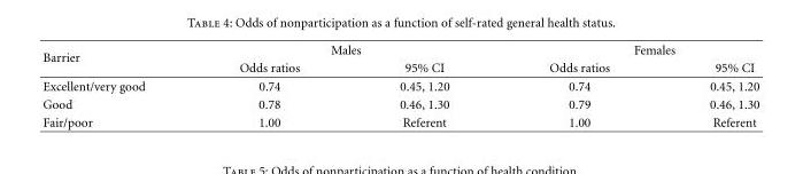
<table><thead><tr><td rowspan="2">Barrier</td><td colspan="2">Males</td><td colspan="2">Females</td></tr><tr><td>Odds ratios</td><td>95% CI</td><td>Odds ratios</td><td>95% CI</td></tr></thead><tbody><tr><td>Excellent/very good</td><td>0.74</td><td>0.45, 1.20</td><td>0.74</td><td>0.45, 1.20</td></tr><tr><td>Good</td><td>0.78</td><td>0.46, 1.30</td><td>0.79</td><td>0.46, 1.30</td></tr><tr><td>Fair/poor</td><td>1.00</td><td>Referent</td><td>1.00</td><td>Referent</td></tr></tbody></table>